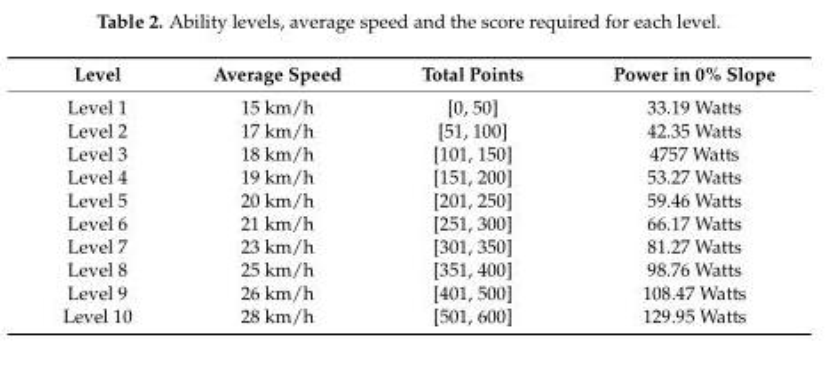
<table><thead><tr><td>Level</td><td>Average Speed</td><td>Total Points</td><td>Power in 0% Slope</td></tr></thead><tbody><tr><td>Level 1</td><td>15 km/h</td><td>[0, 50]</td><td>33.19 Watts</td></tr><tr><td>Level 2</td><td>17 km/h</td><td>[51, 100]</td><td>42.35 Watts</td></tr><tr><td>Level 3</td><td>18 km/h</td><td>[101, 150]</td><td>4757 Watts</td></tr><tr><td>Level 4</td><td>19 km/h</td><td>[151, 200]</td><td>53.27 Watts</td></tr><tr><td>Level 5</td><td>20 km/h</td><td>[201, 250]</td><td>59.46 Watts</td></tr><tr><td>Level 6</td><td>21 km/h</td><td>[251, 300]</td><td>66.17 Watts</td></tr><tr><td>Level 7</td><td>23 km/h</td><td>[301, 350]</td><td>81.27 Watts</td></tr><tr><td>Level 8</td><td>25 km/h</td><td>[351, 400]</td><td>98.76 Watts</td></tr><tr><td>Level 9</td><td>26 km/h</td><td>[401, 500]</td><td>108.47 Watts</td></tr><tr><td>Level 10</td><td>28 km/h</td><td>[501, 600]</td><td>129.95 Watts</td></tr></tbody></table>